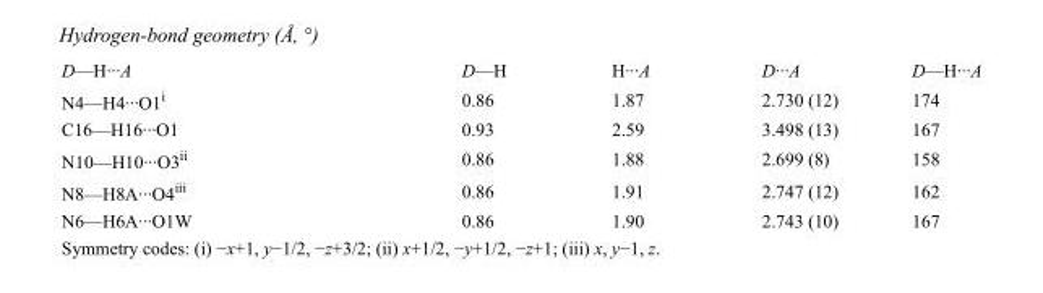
<table><tbody><tr><td>D—H···A</td><td>D—H</td><td>H···A</td><td>D···A</td><td>D—H···A</td></tr><tr><td>N4—H4···O1<sup>i</sup></td><td>0.86</td><td>1.87</td><td>2.730 (12)</td><td>174</td></tr><tr><td>C16—H16···O1</td><td>0.93</td><td>2.59</td><td>3.498 (13)</td><td>167</td></tr><tr><td>N10—H10···O3<sup>ii</sup></td><td>0.86</td><td>1.88</td><td>2.699 (8)</td><td>158</td></tr><tr><td>N8—H8A···O4<sup>iii</sup></td><td>0.86</td><td>1.91</td><td>2.747 (12)</td><td>162</td></tr><tr><td>N6—H6A···O1W</td><td>0.86</td><td>1.90</td><td>2.743 (10)</td><td>167</td></tr></tbody></table>